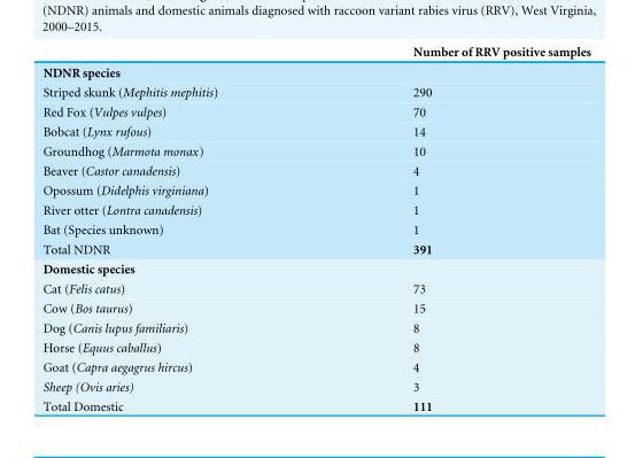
<table><thead><tr><td></td><td>Number of RRV positive samples</td></tr></thead><tbody><tr><td colspan="2">NDNR species</td></tr><tr><td>Striped skunk (Mephitis mephitis)</td><td>290</td></tr><tr><td>Red Fox (Vulpes vulpes)</td><td>70</td></tr><tr><td>Bobcat (Lynx rufous)</td><td>14</td></tr><tr><td>Groundhog (Marmota monax)</td><td>10</td></tr><tr><td>Beaver (Castor canadensis)</td><td>4</td></tr><tr><td>Opossum (Didelphis virginiana)</td><td>1</td></tr><tr><td>River otter (Lontra canadensis)</td><td>1</td></tr><tr><td>Bat (Species unknown)</td><td>1</td></tr><tr><td>Total NDNR</td><td>391</td></tr><tr><td colspan="2">Domestic species</td></tr><tr><td>Cat (Felis catus)</td><td>73</td></tr><tr><td>Cow (Bos taurus)</td><td>15</td></tr><tr><td>Dog (Canis lupus familiaris)</td><td>8</td></tr><tr><td>Horse (Equus caballus)</td><td>8</td></tr><tr><td>Goat (Capra aegagrus hircus)</td><td>4</td></tr><tr><td>Sheep (Ovis aries)</td><td>3</td></tr><tr><td>Total Domestic</td><td>111</td></tr></tbody></table>